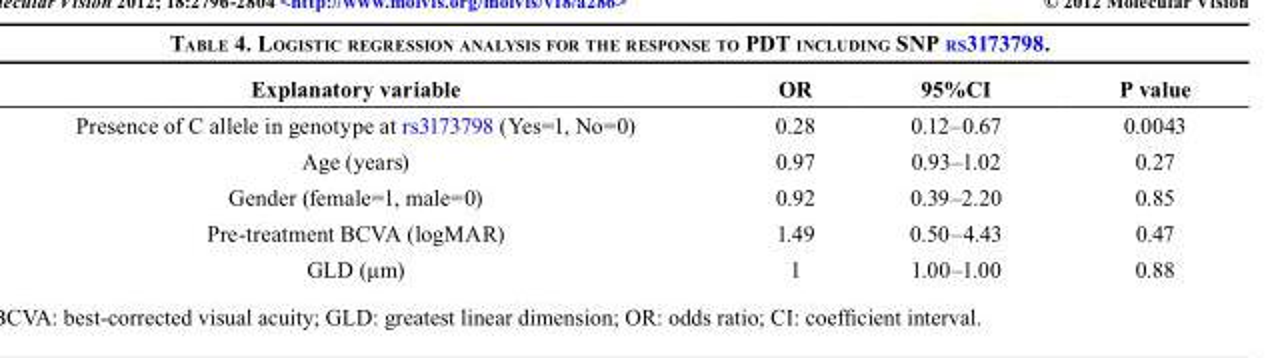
<table><thead><tr><td>Explanatory variable</td><td>OR</td><td>95%CI</td><td>P value</td></tr></thead><tbody><tr><td>Presence of C allele in genotype at rs3173798 (Yes=1, No=0)</td><td>0.28</td><td>0.12–0.67</td><td>0.0043</td></tr><tr><td>Age (years)</td><td>0.97</td><td>0.93–1.02</td><td>0.27</td></tr><tr><td>Gender (female=1, male=0)</td><td>0.92</td><td>0.39–2.20</td><td>0.85</td></tr><tr><td>Pre-treatment BCVA (logMAR)</td><td>1.49</td><td>0.50–4.43</td><td>0.47</td></tr><tr><td>GLD (μm)</td><td>1</td><td>1.00–1.00</td><td>0.88</td></tr></tbody></table>